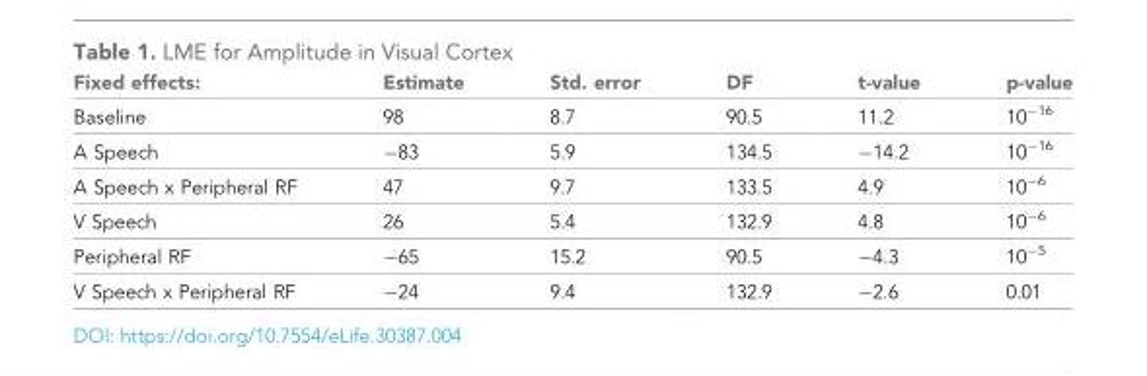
<table><thead><tr><td>Fixed effects:</td><td>Estimate</td><td>Std. error</td><td>DF</td><td>t-value</td><td>p-value</td></tr></thead><tbody><tr><td>Baseline</td><td>98</td><td>8.7</td><td>90.5</td><td>11.2</td><td>10<sup>−16</sup></td></tr><tr><td>A Speech</td><td>−83</td><td>5.9</td><td>134.5</td><td>−14.2</td><td>10<sup>−16</sup></td></tr><tr><td>A Speech x Peripheral RF</td><td>47</td><td>9.7</td><td>133.5</td><td>4.9</td><td>10<sup>−6</sup></td></tr><tr><td>V Speech</td><td>26</td><td>5.4</td><td>132.9</td><td>4.8</td><td>10<sup>−6</sup></td></tr><tr><td>Peripheral RF</td><td>−65</td><td>15.2</td><td>90.5</td><td>−4.3</td><td>10<sup>−5</sup></td></tr><tr><td>V Speech x Peripheral RF</td><td>−24</td><td>9.4</td><td>132.9</td><td>−2.6</td><td>0.01</td></tr></tbody></table>